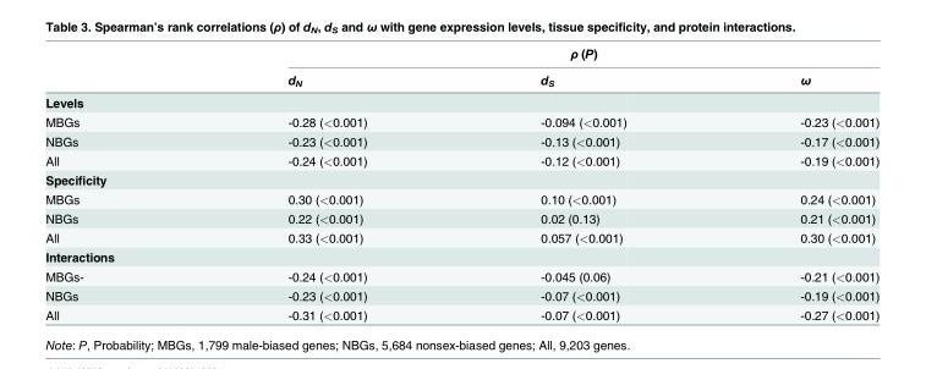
<table><thead><tr><td rowspan="2"></td><td rowspan="2">d<sub>N</sub></td><td rowspan="2">ρ (P) d<sub>S</sub></td><td rowspan="2">ω</td></tr><tr></tr></thead><tbody><tr><td colspan="4">Levels</td></tr><tr><td>MBGs</td><td>-0.28 (&lt;0.001)</td><td>-0.094 (&lt;0.001)</td><td>-0.23 (&lt;0.001)</td></tr><tr><td>NBGs</td><td>-0.23 (&lt;0.001)</td><td>-0.13 (&lt;0.001)</td><td>-0.17 (&lt;0.001)</td></tr><tr><td>All</td><td>-0.24 (&lt;0.001)</td><td>-0.12 (&lt;0.001)</td><td>-0.19 (&lt;0.001)</td></tr><tr><td colspan="4">Specificity</td></tr><tr><td>MBGs</td><td>0.30 (&lt;0.001)</td><td>0.10 (&lt;0.001)</td><td>0.24 (&lt;0.001)</td></tr><tr><td>NBGs</td><td>0.22 (&lt;0.001)</td><td>0.02 (0.13)</td><td>0.21 (&lt;0.001)</td></tr><tr><td>All</td><td>0.33 (&lt;0.001)</td><td>0.057 (&lt;0.001)</td><td>0.30 (&lt;0.001)</td></tr><tr><td colspan="4">Interactions</td></tr><tr><td>MBGs-</td><td>-0.24 (&lt;0.001)</td><td>-0.045 (0.06)</td><td>-0.21 (&lt;0.001)</td></tr><tr><td>NBGs</td><td>-0.23 (&lt;0.001)</td><td>-0.07 (&lt;0.001)</td><td>-0.19 (&lt;0.001)</td></tr><tr><td>All</td><td>-0.31 (&lt;0.001)</td><td>-0.07 (&lt;0.001)</td><td>-0.27 (&lt;0.001)</td></tr></tbody></table>